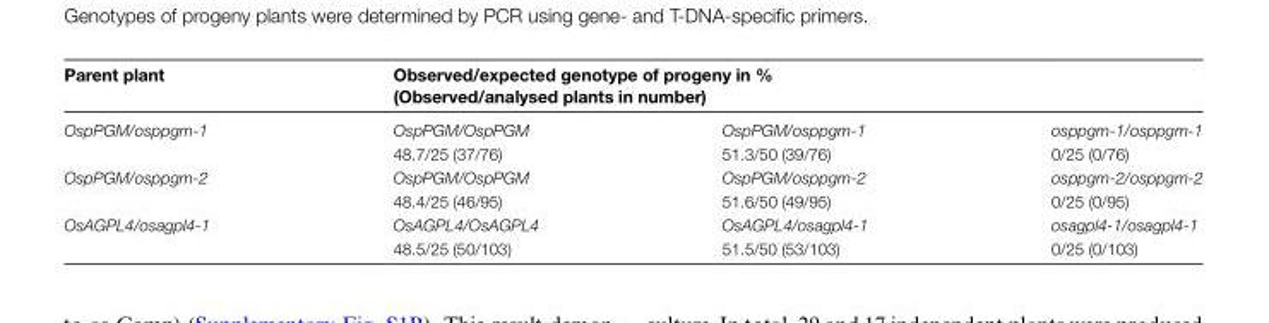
<table><thead><tr><td rowspan="2">Parent plant OspPGM/osppgm-1</td><td colspan="3">Observed/expected genotype of progeny in % (Observed/analysed plants in number)</td></tr><tr><td>OspPGM/OspPGM 48.7/25 (37/76)</td><td>OspPGM/osppgm-1 51.3/50 (39/76)</td><td>osppgm-1/osppgm-1 0/25 (0/76)</td></tr></thead><tbody><tr><td>OspPGM/osppgm-2</td><td>OspPGM/OspPGM 48.4/25 (46/95)</td><td>OspPGM/osppgm-2 51.6/50 (49/95)</td><td>osppgm-2/osppgm-2 0/25 (0/95)</td></tr><tr><td>OsAGPL4/osagpl4-1</td><td>OsAGPL4/OsAGPL4 48.5/25 (50/103)</td><td>OsAGPL4/osagpl4-1 51.5/50 (53/103)</td><td>osagpl4-1/osagpl4-1 0/25 (0/103)</td></tr></tbody></table>